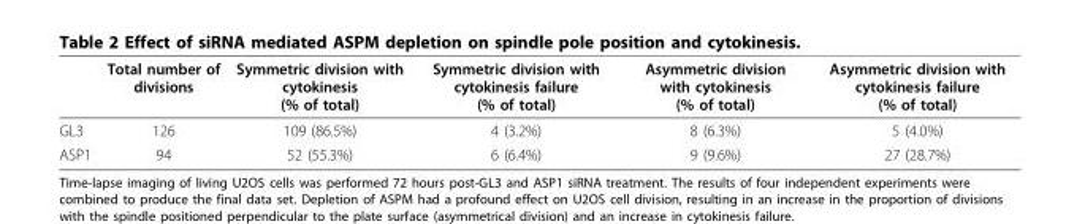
<table><thead><tr><td></td><td>Total number of divisions</td><td>Symmetric division with cytokinesis (% of total)</td><td>Symmetric division with cytokinesis failure (% of total)</td><td>Asymmetric division with cytokinesis (% of total)</td><td>Asymmetric division with cytokinesis failure (% of total)</td></tr></thead><tbody><tr><td>GL3</td><td>126</td><td>109 (86.5%)</td><td>4 (3.2%)</td><td>8 (6.3%)</td><td>5 (4.0%)</td></tr><tr><td>ASP1</td><td>94</td><td>52 (55.3%)</td><td>6 (6.4%)</td><td>9 (9.6%)</td><td>27 (28.7%)</td></tr></tbody></table>